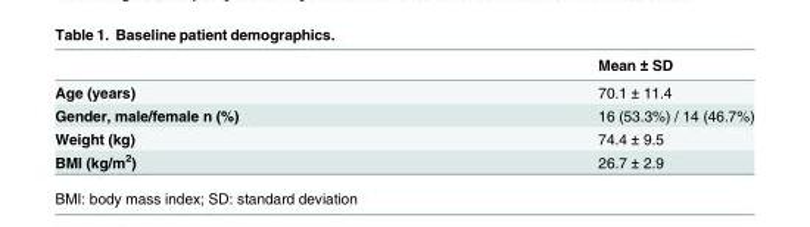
<table><thead><tr><td></td><td>Mean ± SD</td></tr></thead><tbody><tr><td>Age (years)</td><td>70.1 ± 11.4</td></tr><tr><td>Gender, male/female n (%)</td><td>16 (53.3%) / 14 (46.7%)</td></tr><tr><td>Weight (kg)</td><td>74.4 ± 9.5</td></tr><tr><td>BMI (kg/m<sup>2</sup>)</td><td>26.7 ± 2.9</td></tr></tbody></table>